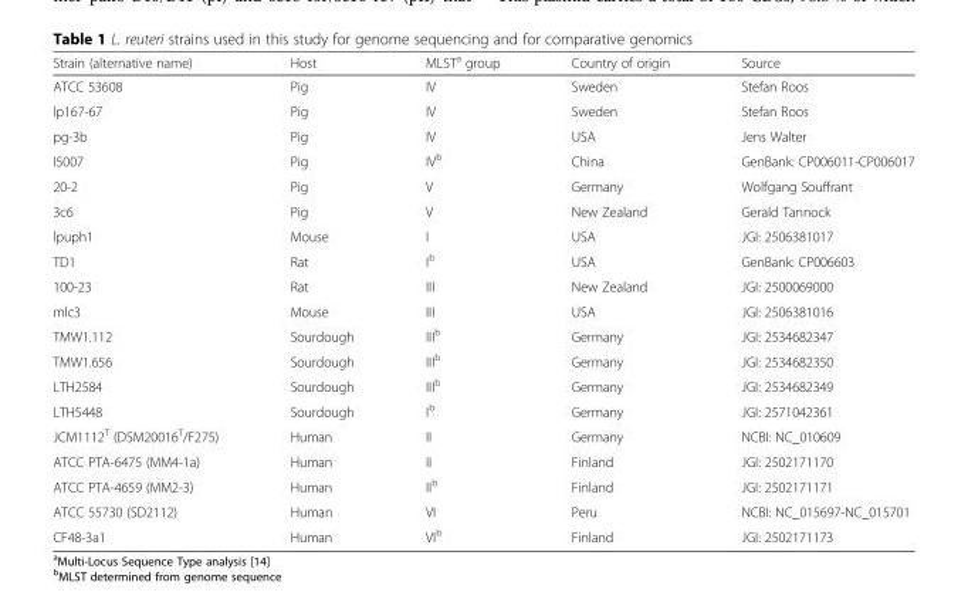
<table><thead><tr><td>Strain (alternative name)</td><td>Host</td><td>MLST<sup>a</sup> group</td><td>Country of origin</td><td>Source</td></tr></thead><tbody><tr><td>ATCC 53608</td><td>Pig</td><td>IV</td><td>Sweden</td><td>Stefan Roos</td></tr><tr><td>lp167-67</td><td>Pig</td><td>IV</td><td>Sweden</td><td>Stefan Roos</td></tr><tr><td>pg-3b</td><td>Pig</td><td>IV</td><td>USA</td><td>Jens Walter</td></tr><tr><td>I5007</td><td>Pig</td><td>IV<sup>b</sup></td><td>China</td><td>GenBank: CP006011-CP006017</td></tr><tr><td>20-2</td><td>Pig</td><td>V</td><td>Germany</td><td>Wolfgang Souffrant</td></tr><tr><td>3c6</td><td>Pig</td><td>V</td><td>New Zealand</td><td>Gerald Tannock</td></tr><tr><td>lpuph1</td><td>Mouse</td><td>I</td><td>USA</td><td>JGI: 2506381017</td></tr><tr><td>TD1</td><td>Rat</td><td>I<sup>b</sup></td><td>USA</td><td>GenBank: CP006603</td></tr><tr><td>100-23</td><td>Rat</td><td>III</td><td>New Zealand</td><td>JGI: 2500069000</td></tr><tr><td>mlc3</td><td>Mouse</td><td>III</td><td>USA</td><td>JGI: 2506381016</td></tr><tr><td>TMW1.112</td><td>Sourdough</td><td>III<sup>b</sup></td><td>Germany</td><td>JGI: 2534682347</td></tr><tr><td>TMW1.656</td><td>Sourdough</td><td>III<sup>b</sup></td><td>Germany</td><td>JGI: 2534682350</td></tr><tr><td>LTH2584</td><td>Sourdough</td><td>III<sup>b</sup></td><td>Germany</td><td>JGI: 2534682349</td></tr><tr><td>LTH5448</td><td>Sourdough</td><td>I<sup>b</sup></td><td>Germany</td><td>JGI: 2571042361</td></tr><tr><td>JCM1112<sup>T</sup> (DSM20016<sup>T</sup>/F275)</td><td>Human</td><td>II</td><td>Germany</td><td>NCBI: NC_010609</td></tr><tr><td>ATCC PTA-6475 (MM4-1a)</td><td>Human</td><td>II</td><td>Finland</td><td>JGI: 2502171170</td></tr><tr><td>ATCC PTA-4659 (MM2-3)</td><td>Human</td><td>II<sup>b</sup></td><td>Finland</td><td>JGI: 2502171171</td></tr><tr><td>ATCC 55730 (SD2112)</td><td>Human</td><td>VI</td><td>Peru</td><td>NCBI: NC_015697-NC_015701</td></tr><tr><td>CF48-3a1</td><td>Human</td><td>VI<sup>b</sup></td><td>Finland</td><td>JGI: 2502171173</td></tr></tbody></table>